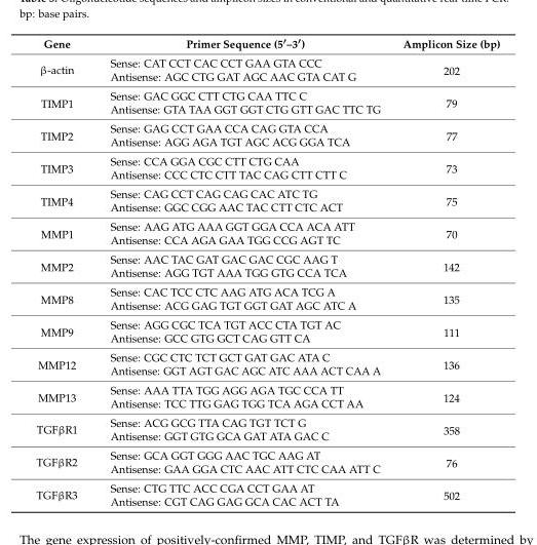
<table><thead><tr><td>Gene</td><td>Primer Sequence (5′–3′)</td><td>Amplicon Size (bp)</td></tr></thead><tbody><tr><td rowspan="2">β-actin</td><td>Sense: CAT CCT CAC CCT GAA GTA CCC</td><td rowspan="2">202</td></tr><tr><td>Antisense: AGC CTG GAT AGC AAC GTA CAT G</td></tr><tr><td rowspan="2">TIMP1</td><td>Sense: GAC GGC CTT CTG CAA TTC C</td><td rowspan="2">79</td></tr><tr><td>Antisense: GTA TAA GGT GGT CTG GTT GAC TTC TG</td></tr><tr><td rowspan="2">TIMP2</td><td>Sense: GAG CCT GAA CCA CAG GTA CCA</td><td rowspan="2">77</td></tr><tr><td>Antisense: AGG AGA TGT AGC ACG GGA TCA</td></tr><tr><td rowspan="2">TIMP3</td><td>Sense: CCA GGA CGC CTT CTG CAA</td><td rowspan="2">73</td></tr><tr><td>Antisense: CCC CTC CTT TAC CAG CTT CTT C</td></tr><tr><td rowspan="2">TIMP4</td><td>Sense: CAG CCT CAG CAG CAC ATC TG</td><td rowspan="2">75</td></tr><tr><td>Antisense: GGC CGG AAC TAC CTT CTC ACT</td></tr><tr><td rowspan="2">MMP1</td><td>Sense: AAG ATG AAA GGT GGA CCA ACA ATT</td><td rowspan="2">70</td></tr><tr><td>Antisense: CCA AGA GAA TGG CCG AGT TC</td></tr><tr><td rowspan="2">MMP2</td><td>Sense: AAC TAC GAT GAC GAC CGC AAG T</td><td rowspan="2">142</td></tr><tr><td>Antisense: AGG TGT AAA TGG GTG CCA TCA</td></tr><tr><td rowspan="2">MMP8</td><td>Sense: CAC TCC CTC AAG ATG ACA TCG A</td><td rowspan="2">135</td></tr><tr><td>Antisense: ACG GAG TGT GGT GAT AGC ATC A</td></tr><tr><td rowspan="2">MMP9</td><td>Sense: AGG CGC TCA TGT ACC CTA TGT AC</td><td rowspan="2">111</td></tr><tr><td>Antisense: GCC GTG GCT CAG GTT CA</td></tr><tr><td rowspan="2">MMP12</td><td>Sense: CGC CTC TCT GCT GAT GAC ATA C</td><td rowspan="2">136</td></tr><tr><td>Antisense: GGT AGT GAC AGC ATC AAA ACT CAA A</td></tr><tr><td rowspan="2">MMP13</td><td>Sense: AAA TTA TGG AGG AGA TGC CCA TT</td><td rowspan="2">124</td></tr><tr><td>Antisense: TCC TTG GAG TGG TCA AGA CCT AA</td></tr><tr><td rowspan="2">TGFβR1</td><td>Sense: ACG GCG TTA CAG TGT TCT G</td><td rowspan="2">358</td></tr><tr><td>Antisense: GGT GTG GCA GAT ATA GAC C</td></tr><tr><td rowspan="2">TGFβR2</td><td>Sense: GCA GGT GGG AAC TGC AAG AT</td><td rowspan="2">76</td></tr><tr><td>Antisense: GAA GGA CTC AAC ATT CTC CAA ATT C</td></tr><tr><td rowspan="2">TGFβR3</td><td>Sense: CTG TTC ACC CGA CCT GAA AT</td><td rowspan="2">502</td></tr><tr><td>Antisense: CGT CAG GAG GCA CAC ACT TA</td></tr></tbody></table>